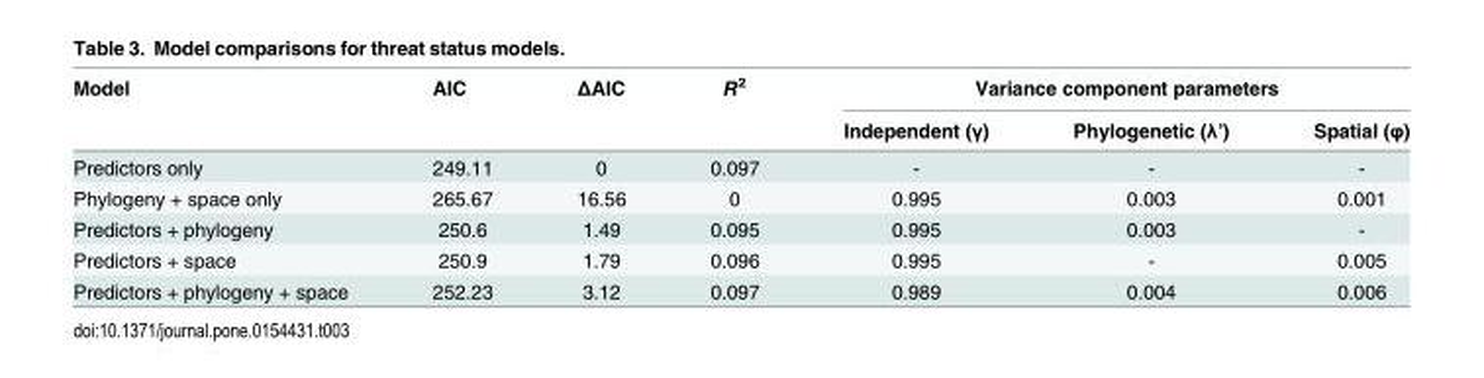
<table><thead><tr><td rowspan="2">Model</td><td rowspan="2">AIC</td><td rowspan="2">ΔAIC</td><td rowspan="2">R<sup>2</sup></td><td colspan="3">Variance component parameters</td></tr><tr><td>Independent (γ)</td><td>Phylogenetic (λ’)</td><td>Spatial (φ)</td></tr></thead><tbody><tr><td>Predictors only</td><td>249.11</td><td>0</td><td>0.097</td><td>-</td><td>-</td><td>-</td></tr><tr><td>Phylogeny + space only</td><td>265.67</td><td>16.56</td><td>0</td><td>0.995</td><td>0.003</td><td>0.001</td></tr><tr><td>Predictors + phylogeny</td><td>250.6</td><td>1.49</td><td>0.095</td><td>0.995</td><td>0.003</td><td>-</td></tr><tr><td>Predictors + space</td><td>250.9</td><td>1.79</td><td>0.096</td><td>0.995</td><td>-</td><td>0.005</td></tr><tr><td>Predictors + phylogeny + space</td><td>252.23</td><td>3.12</td><td>0.097</td><td>0.989</td><td>0.004</td><td>0.006</td></tr></tbody></table>